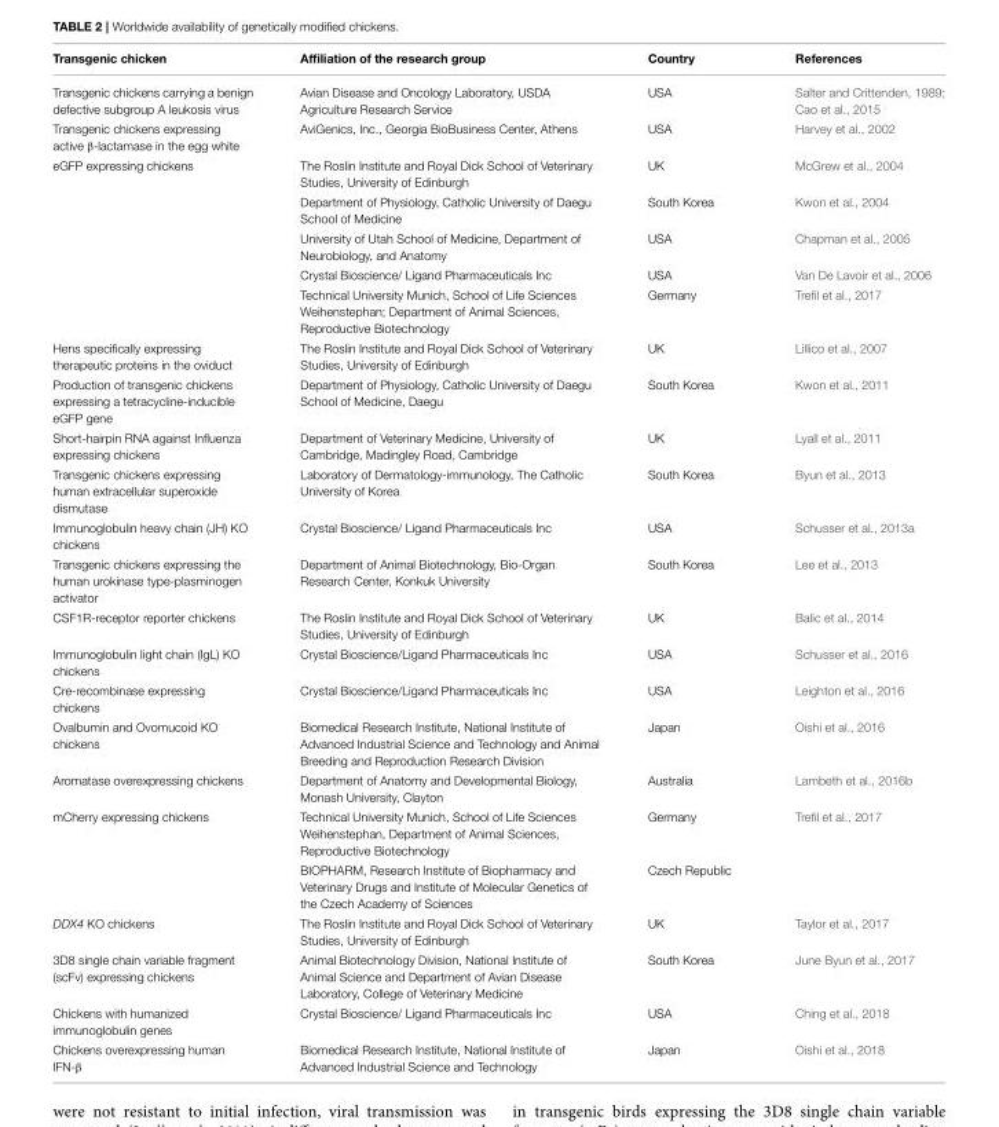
<table><thead><tr><td>Transgenic chicken</td><td>Affiliation of the research group</td><td>Country</td><td>References</td></tr></thead><tbody><tr><td>Transgenic chickens carrying a benign defective subgroup A leukosis virus</td><td>Avian Disease and Oncology Laboratory, USDA Agriculture Research Service</td><td>USA</td><td>Salter and Crittenden, 1989; Cao et al., 2015</td></tr><tr><td>Transgenic chickens expressing active β-lactamase in the egg white</td><td>AviGenics, Inc., Georgia BioBusiness Center, Athens</td><td>USA</td><td>Harvey et al., 2002</td></tr><tr><td rowspan="5">eGFP expressing chickens</td><td>The Roslin Institute and Royal Dick School of Veterinary Studies, University of Edinburgh</td><td>UK</td><td>McGrew et al., 2004</td></tr><tr><td>Department of Physiology, Catholic University of Daegu School of Medicine</td><td>South Korea</td><td>Kwon et al., 2004</td></tr><tr><td>University of Utah School of Medicine, Department of Neurobiology, and Anatomy</td><td>USA</td><td>Chapman et al., 2005</td></tr><tr><td>Crystal Bioscience/ Ligand Pharmaceuticals Inc</td><td>USA</td><td>Van De Lavoir et al., 2006</td></tr><tr><td>Technical University Munich, School of Life Sciences Weihenstephan; Department of Animal Sciences, Reproductive Biotechnology</td><td>Germany</td><td>Trefil et al., 2017</td></tr><tr><td>Hens specifically expressing therapeutic proteins in the oviduct</td><td>The Roslin Institute and Royal Dick School of Veterinary Studies, University of Edinburgh</td><td>UK</td><td>Lillico et al., 2007</td></tr><tr><td>Production of transgenic chickens expressing a tetracycline-inducible eGFP gene</td><td>Department of Physiology, Catholic University of Daegu School of Medicine, Daegu</td><td>South Korea</td><td>Kwon et al., 2011</td></tr><tr><td>Short-hairpin RNA against Influenza expressing chickens</td><td>Department of Veterinary Medicine, University of Cambridge, Madingley Road, Cambridge</td><td>UK</td><td>Lyall et al., 2011</td></tr><tr><td>Transgenic chickens expressing human extracellular superoxide dismutase</td><td>Laboratory of Dermatology-immunology, The Catholic University of Korea</td><td>South Korea</td><td>Byun et al., 2013</td></tr><tr><td>Immunoglobulin heavy chain (JH) KO chickens</td><td>Crystal Bioscience/ Ligand Pharmaceuticals Inc</td><td>USA</td><td>Schusser et al., 2013a</td></tr><tr><td>Transgenic chickens expressing the human urokinase type-plasminogen activator</td><td>Department of Animal Biotechnology, Bio-Organ Research Center, Konkuk University</td><td>South Korea</td><td>Lee et al., 2013</td></tr><tr><td>CSF1R-receptor reporter chickens</td><td>The Roslin Institute and Royal Dick School of Veterinary Studies, University of Edinburgh</td><td>UK</td><td>Balic et al., 2014</td></tr><tr><td>Immunoglobulin light chain (IgL) KO chickens</td><td>Crystal Bioscience/Ligand Pharmaceuticals Inc</td><td>USA</td><td>Schusser et al., 2016</td></tr><tr><td>Cre-recombinase expressing chickens</td><td>Crystal Bioscience/Ligand Pharmaceuticals Inc</td><td>USA</td><td>Leighton et al., 2016</td></tr><tr><td>Ovalbumin and Ovomucoid KO chickens</td><td>Biomedical Research Institute, National Institute of Advanced Industrial Science and Technology and Animal Breeding and Reproduction Research Division</td><td>Japan</td><td>Oishi et al., 2016</td></tr><tr><td>Aromatase overexpressing chickens</td><td>Department of Anatomy and Developmental Biology, Monash University, Clayton</td><td>Australia</td><td>Lambeth et al., 2016b</td></tr><tr><td rowspan="2">mCherry expressing chickens</td><td>Technical University Munich, School of Life Sciences Weihenstephan, Department of Animal Sciences, Reproductive Biotechnology</td><td>Germany</td><td>Trefil et al., 2017</td></tr><tr><td>BIOPHARM, Research Institute of Biopharmacy and Veterinary Drugs and Institute of Molecular Genetics of the Czech Academy of Sciences</td><td>Czech Republic</td><td></td></tr><tr><td>DDX4 KO chickens</td><td>The Roslin Institute and Royal Dick School of Veterinary Studies, University of Edinburgh</td><td>UK</td><td>Taylor et al., 2017</td></tr><tr><td>3D8 single chain variable fragment (scFv) expressing chickens</td><td>Animal Biotechnology Division, National Institute of Animal Science and Department of Avian Disease Laboratory, College of Veterinary Medicine</td><td>South Korea</td><td>June Byun et al., 2017</td></tr><tr><td>Chickens with humanized immunoglobulin genes</td><td>Crystal Bioscience/ Ligand Pharmaceuticals Inc</td><td>USA</td><td>Ching et al., 2018</td></tr><tr><td>Chickens overexpressing human IFN-β</td><td>Biomedical Research Institute, National Institute of Advanced Industrial Science and Technology</td><td>Japan</td><td>Oishi et al., 2018</td></tr></tbody></table>